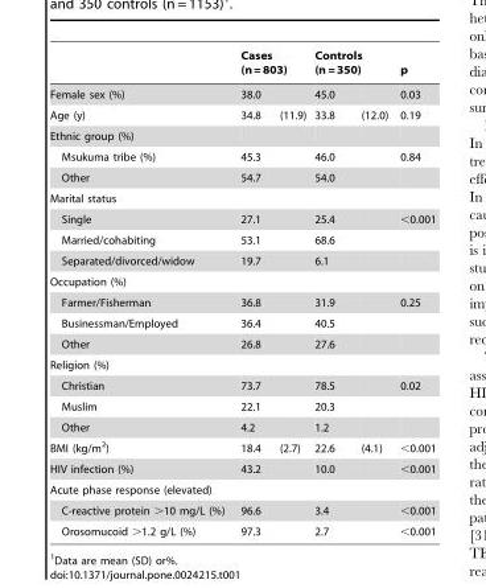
<table><thead><tr><td rowspan="2">Female sex (%)</td><td colspan="2">Cases (n = 803)</td><td colspan="2">Controls (n = 350)</td><td rowspan="2">p 0.03</td></tr><tr><td>38.0</td><td></td><td>45.0</td><td></td></tr></thead><tbody><tr><td>Age (y)</td><td>34.8</td><td>(11.9)</td><td>33.8</td><td>(12.0)</td><td>0.19</td></tr><tr><td colspan="6">Ethnic group (%)</td></tr><tr><td>Msukuma tribe (%)</td><td>45.3</td><td></td><td>46.0</td><td></td><td>0.84</td></tr><tr><td>Other</td><td>54.7</td><td></td><td>54.0</td><td></td><td></td></tr><tr><td colspan="6">Marital status</td></tr><tr><td>Single</td><td>27.1</td><td></td><td>25.4</td><td></td><td>&lt;0.001</td></tr><tr><td>Married/cohabiting</td><td>53.1</td><td></td><td>68.6</td><td></td><td></td></tr><tr><td>Separated/divorced/widow</td><td>19.7</td><td></td><td>6.1</td><td></td><td></td></tr><tr><td colspan="6">Occupation (%)</td></tr><tr><td>Farmer/Fisherman</td><td>36.8</td><td></td><td>31.9</td><td></td><td>0.25</td></tr><tr><td>Businessman/Employed</td><td>36.4</td><td></td><td>40.5</td><td></td><td></td></tr><tr><td>Other</td><td>26.8</td><td></td><td>27.6</td><td></td><td></td></tr><tr><td colspan="6">Religion (%)</td></tr><tr><td>Christian</td><td>73.7</td><td></td><td>78.5</td><td></td><td>0.02</td></tr><tr><td>Muslim</td><td>22.1</td><td></td><td>20.3</td><td></td><td></td></tr><tr><td>Other</td><td>4.2</td><td></td><td>1.2</td><td></td><td></td></tr><tr><td>BMI (kg/m<sup>2</sup>)</td><td>18.4</td><td>(2.7)</td><td>22.6</td><td>(4.1)</td><td>&lt;0.001</td></tr><tr><td>HIV infection (%)</td><td>43.2</td><td></td><td>10.0</td><td></td><td>&lt;0.001</td></tr><tr><td colspan="6">Acute phase response (elevated)</td></tr><tr><td>C-reactive protein &gt;10 mg/L (%)</td><td>96.6</td><td></td><td>3.4</td><td></td><td>&lt;0.001</td></tr><tr><td>Orosomucoid &gt;1.2 g/L (%)</td><td>97.3</td><td></td><td>2.7</td><td></td><td>&lt;0.001</td></tr></tbody></table>